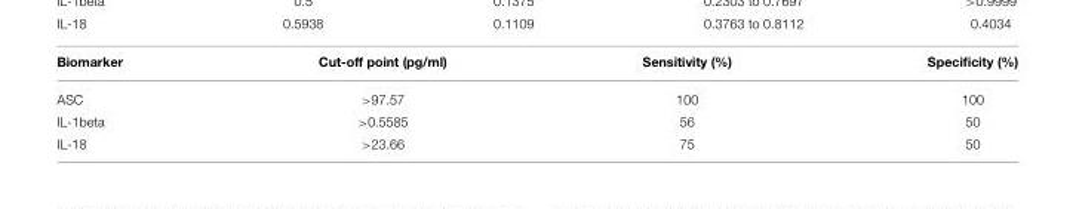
<table><thead><tr><td>Biomarker</td><td>Cut-off point (pg/ml)</td><td>Sensitivity (%)</td><td>Specificity (%)</td></tr></thead><tbody><tr><td>ASC</td><td>&gt;97.57</td><td>100</td><td>100</td></tr><tr><td>IL-1beta</td><td>&gt;0.5585</td><td>56</td><td>50</td></tr><tr><td>IL-18</td><td>&gt;23.66</td><td>75</td><td>50</td></tr></tbody></table>